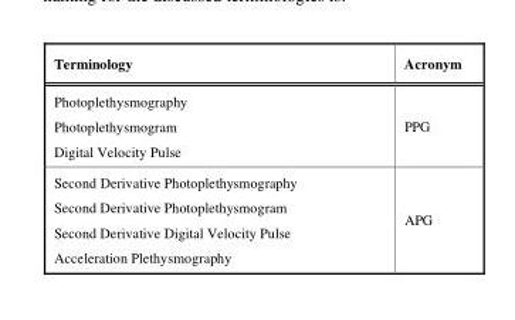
<table><tbody><tr><td>Terminology</td><td>Acronym</td></tr><tr><td>Photoplethysmography Photoplethysmogram Digital Velocity Pulse</td><td>PPG</td></tr><tr><td>Second Derivative Photoplethysmography Second Derivative Photoplethysmogram Second Derivative Digital Velocity Pulse Acceleration Plethysmography</td><td>APG</td></tr></tbody></table>